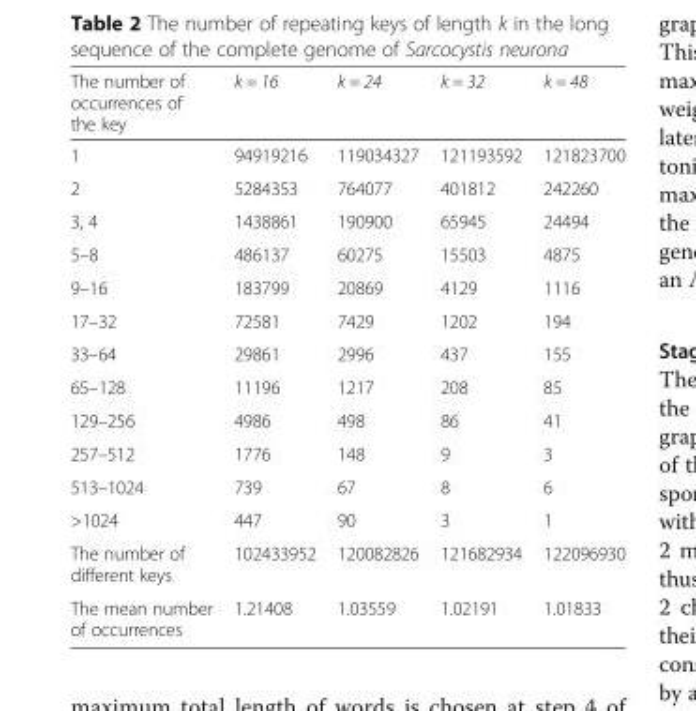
<table><thead><tr><td>The number of occurrences of the key</td><td>k = 16</td><td>k = 24</td><td>k = 32</td><td>k = 48</td></tr></thead><tbody><tr><td>1</td><td>94919216</td><td>119034327</td><td>121193592</td><td>121823700</td></tr><tr><td>2</td><td>5284353</td><td>764077</td><td>401812</td><td>242260</td></tr><tr><td>3, 4</td><td>1438861</td><td>190900</td><td>65945</td><td>24494</td></tr><tr><td>5–8</td><td>486137</td><td>60275</td><td>15503</td><td>4875</td></tr><tr><td>9–16</td><td>183799</td><td>20869</td><td>4129</td><td>1116</td></tr><tr><td>17–32</td><td>72581</td><td>7429</td><td>1202</td><td>194</td></tr><tr><td>33–64</td><td>29861</td><td>2996</td><td>437</td><td>155</td></tr><tr><td>65–128</td><td>11196</td><td>1217</td><td>208</td><td>85</td></tr><tr><td>129–256</td><td>4986</td><td>498</td><td>86</td><td>41</td></tr><tr><td>257–512</td><td>1776</td><td>148</td><td>9</td><td>3</td></tr><tr><td>513–1024</td><td>739</td><td>67</td><td>8</td><td>6</td></tr><tr><td>&gt;1024</td><td>447</td><td>90</td><td>3</td><td>1</td></tr><tr><td>The number of different keys</td><td>102433952</td><td>120082826</td><td>121682934</td><td>122096930</td></tr><tr><td>The mean number of occurrences</td><td>1.21408</td><td>1.03559</td><td>1.02191</td><td>1.01833</td></tr></tbody></table>